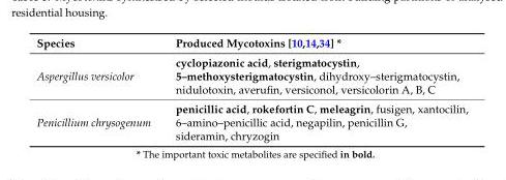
<table><thead><tr><td>Species</td><td>Produced Mycotoxins [10,14,34] *</td></tr></thead><tbody><tr><td>Aspergillus versicolor</td><td>cyclopiazonic acid, sterigmatocystin, 5–methoxysterigmatocystin, dihydroxy–sterigmatocystin, nidulotoxin, averufin, versiconol, versicolorin A, B, C</td></tr><tr><td>Penicillium chrysogenum</td><td>penicillic acid, rokefortin C, meleagrin, fusigen, xantocilin, 6–amino–penicillic acid, negapilin, penicillin G, sideramin, chryzogin</td></tr></tbody></table>